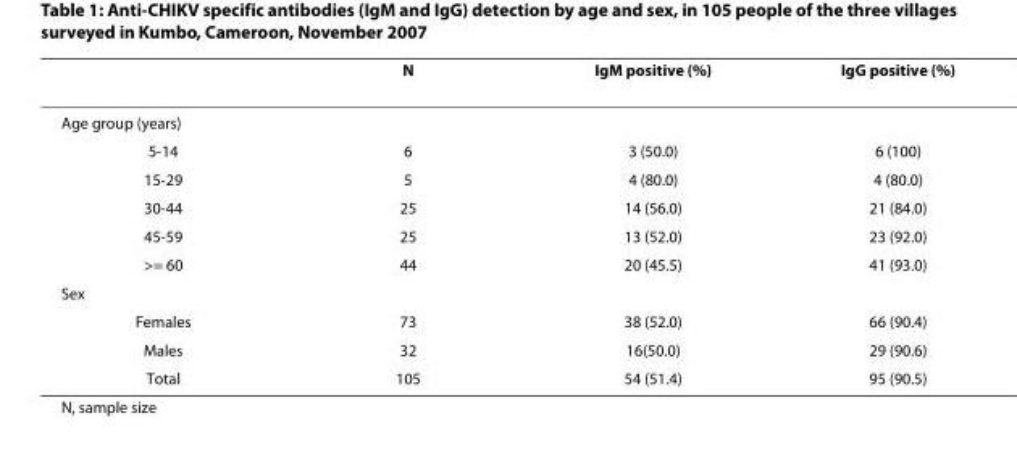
<table><thead><tr><td></td><td>N</td><td>IgM positive (%)</td><td>IgG positive (%)</td></tr></thead><tbody><tr><td colspan="4">Age group (years)</td></tr><tr><td>5-14</td><td>6</td><td>3 (50.0)</td><td>6 (100)</td></tr><tr><td>15-29</td><td>5</td><td>4 (80.0)</td><td>4 (80.0)</td></tr><tr><td>30-44</td><td>25</td><td>14 (56.0)</td><td>21 (84.0)</td></tr><tr><td>45-59</td><td>25</td><td>13 (52.0)</td><td>23 (92.0)</td></tr><tr><td>&gt;= 60</td><td>44</td><td>20 (45.5)</td><td>41 (93.0)</td></tr><tr><td colspan="4">Sex</td></tr><tr><td>Females</td><td>73</td><td>38 (52.0)</td><td>66 (90.4)</td></tr><tr><td>Males</td><td>32</td><td>16(50.0)</td><td>29 (90.6)</td></tr><tr><td>Total</td><td>105</td><td>54 (51.4)</td><td>95 (90.5)</td></tr></tbody></table>